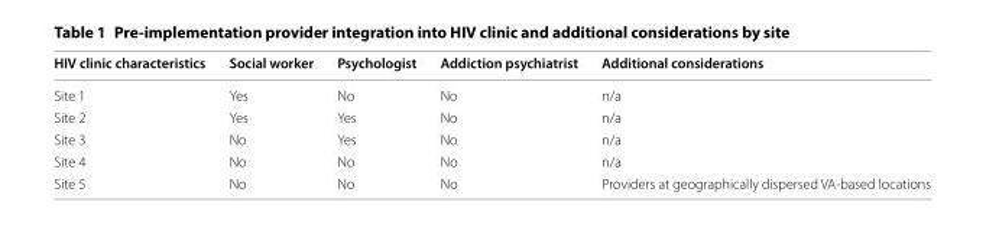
<table><thead><tr><td>HIV clinic characteristics</td><td>Social worker</td><td>Psychologist</td><td>Addiction psychiatrist</td><td>Additional considerations</td></tr></thead><tbody><tr><td>Site 1</td><td>Yes</td><td>No</td><td>No</td><td>n/a</td></tr><tr><td>Site 2</td><td>Yes</td><td>Yes</td><td>No</td><td>n/a</td></tr><tr><td>Site 3</td><td>No</td><td>Yes</td><td>No</td><td>n/a</td></tr><tr><td>Site 4</td><td>No</td><td>No</td><td>No</td><td>n/a</td></tr><tr><td>Site 5</td><td>No</td><td>No</td><td>No</td><td>Providers at geographically dispersed VA-based locations</td></tr></tbody></table>